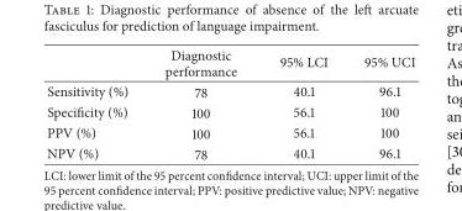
<table><thead><tr><td></td><td>Diagnostic performance</td><td>95% LCI</td><td>95% UCI</td></tr></thead><tbody><tr><td>Sensitivity (%)</td><td>78</td><td>40.1</td><td>96.1</td></tr><tr><td>Specificity (%)</td><td>100</td><td>56.1</td><td>100</td></tr><tr><td>PPV (%)</td><td>100</td><td>56.1</td><td>100</td></tr><tr><td>NPV (%)</td><td>78</td><td>40.1</td><td>96.1</td></tr></tbody></table>